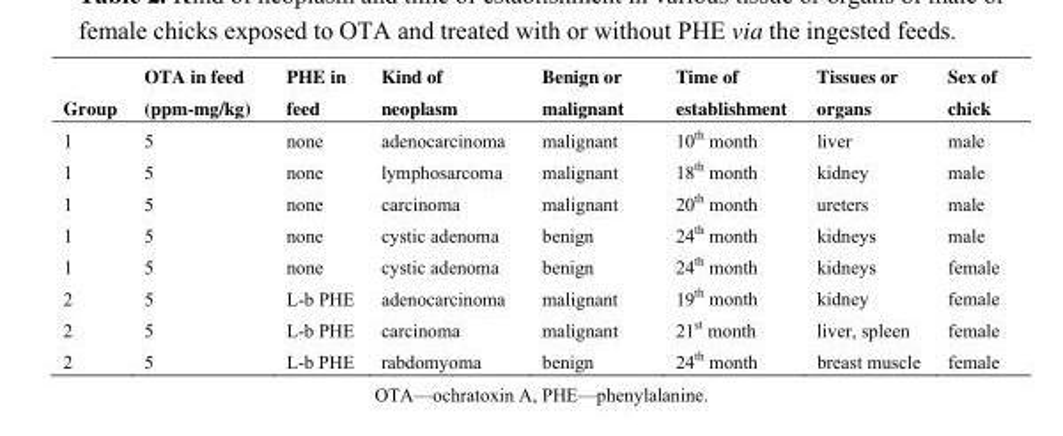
<table><thead><tr><td>Group</td><td>OTA in feed (ppm-mg/kg)</td><td>PHE in feed</td><td>Kind of neoplasm</td><td>Benign or malignant</td><td>Time of establishment</td><td>Tissues or organs</td><td>Sex of chick</td></tr></thead><tbody><tr><td>1</td><td>5</td><td>none</td><td>adenocarcinoma</td><td>malignant</td><td>10<sup>th</sup> month</td><td>liver</td><td>male</td></tr><tr><td>1</td><td>5</td><td>none</td><td>lymphosarcoma</td><td>malignant</td><td>18<sup>th</sup> month</td><td>kidney</td><td>male</td></tr><tr><td>1</td><td>5</td><td>none</td><td>carcinoma</td><td>malignant</td><td>20<sup>th</sup> month</td><td>ureters</td><td>male</td></tr><tr><td>1</td><td>5</td><td>none</td><td>cystic adenoma</td><td>benign</td><td>24<sup>th</sup> month</td><td>kidneys</td><td>male</td></tr><tr><td>1</td><td>5</td><td>none</td><td>cystic adenoma</td><td>benign</td><td>24<sup>th</sup> month</td><td>kidneys</td><td>female</td></tr><tr><td>2</td><td>5</td><td>L-b PHE</td><td>adenocarcinoma</td><td>malignant</td><td>19<sup>th</sup> month</td><td>kidney</td><td>female</td></tr><tr><td>2</td><td>5</td><td>L-b PHE</td><td>carcinoma</td><td>malignant</td><td>21<sup>st</sup> month</td><td>liver, spleen</td><td>female</td></tr><tr><td>2</td><td>5</td><td>L-b PHE</td><td>rabdomyoma</td><td>benign</td><td>24<sup>th</sup> month</td><td>breast muscle</td><td>female</td></tr></tbody></table>